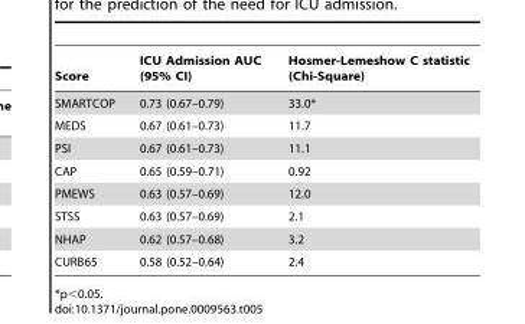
<table><thead><tr><td>Score</td><td>ICU Admission AUC (95% CI)</td><td>Hosmer-Lemeshow C statistic (Chi-Square)</td></tr></thead><tbody><tr><td>SMARTCOP</td><td>0.73 (0.67–0.79)</td><td>33.0*</td></tr><tr><td>MEDS</td><td>0.67 (0.61–0.73)</td><td>11.7</td></tr><tr><td>PSI</td><td>0.67 (0.61–0.73)</td><td>11.1</td></tr><tr><td>CAP</td><td>0.65 (0.59–0.71)</td><td>0.92</td></tr><tr><td>PMEWS</td><td>0.63 (0.57–0.69)</td><td>12.0</td></tr><tr><td>STSS</td><td>0.63 (0.57–0.69)</td><td>2.1</td></tr><tr><td>NHAP</td><td>0.62 (0.57–0.68)</td><td>3.2</td></tr><tr><td>CURB65</td><td>0.58 (0.52–0.64)</td><td>2.4</td></tr></tbody></table>